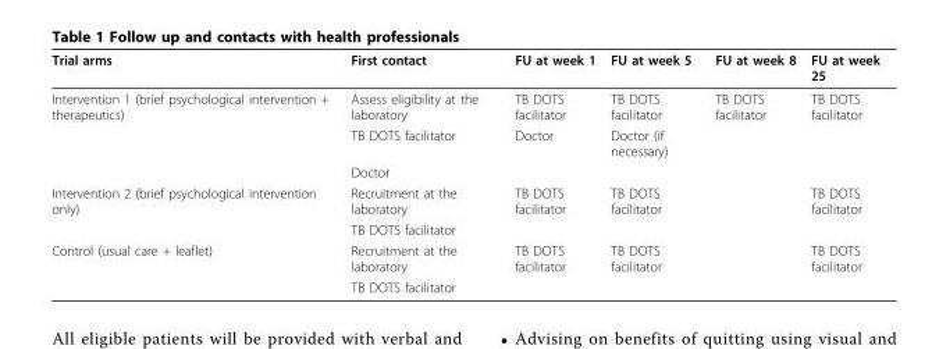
<table><thead><tr><td>Trial arms</td><td>First contact</td><td>FU at week 1</td><td>FU at week 5</td><td>FU at week 8</td><td>FU at week 25</td></tr></thead><tbody><tr><td rowspan="3">Intervention 1 (brief psychological intervention + therapeutics)</td><td>Assess eligibility at the laboratory</td><td>TB DOTS facilitator</td><td>TB DOTS facilitator</td><td>TB DOTS facilitator</td><td>TB DOTS facilitator</td></tr><tr><td>TB DOTS facilitator</td><td>Doctor</td><td>Doctor (if necessary)</td><td></td><td></td></tr><tr><td>Doctor</td><td></td><td></td><td></td><td></td></tr><tr><td rowspan="2">Intervention 2 (brief psychological intervention only)</td><td>Recruitment at the laboratory</td><td>TB DOTS facilitator</td><td>TB DOTS facilitator</td><td></td><td>TB DOTS facilitator</td></tr><tr><td>TB DOTS facilitator</td><td></td><td></td><td></td><td></td></tr><tr><td rowspan="2">Control (usual care + leaflet)</td><td>Recruitment at the laboratory</td><td>TB DOTS facilitator</td><td>TB DOTS facilitator</td><td></td><td>TB DOTS facilitator</td></tr><tr><td>TB DOTS facilitator</td><td></td><td></td><td></td><td></td></tr></tbody></table>